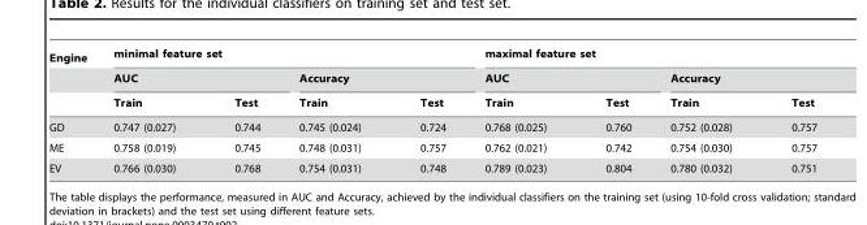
<table><thead><tr><td rowspan="3">Engine</td><td colspan="4">minimal feature set</td><td colspan="4">maximal feature set</td></tr><tr><td colspan="2">AUC</td><td colspan="2">Accuracy</td><td colspan="2">AUC</td><td colspan="2">Accuracy</td></tr><tr><td>Train</td><td>Test</td><td>Train</td><td>Test</td><td>Train</td><td>Test</td><td>Train</td><td>Test</td></tr></thead><tbody><tr><td>GD</td><td>0.747 (0.027)</td><td>0.744</td><td>0.745 (0.024)</td><td>0.724</td><td>0.768 (0.025)</td><td>0.760</td><td>0.752 (0.028)</td><td>0.757</td></tr><tr><td>ME</td><td>0.758 (0.019)</td><td>0.745</td><td>0.748 (0.031)</td><td>0.757</td><td>0.762 (0.021)</td><td>0.742</td><td>0.754 (0.030)</td><td>0.757</td></tr><tr><td>EV</td><td>0.766 (0.030)</td><td>0.768</td><td>0.754 (0.031)</td><td>0.748</td><td>0.789 (0.023)</td><td>0.804</td><td>0.780 (0.032)</td><td>0.751</td></tr></tbody></table>